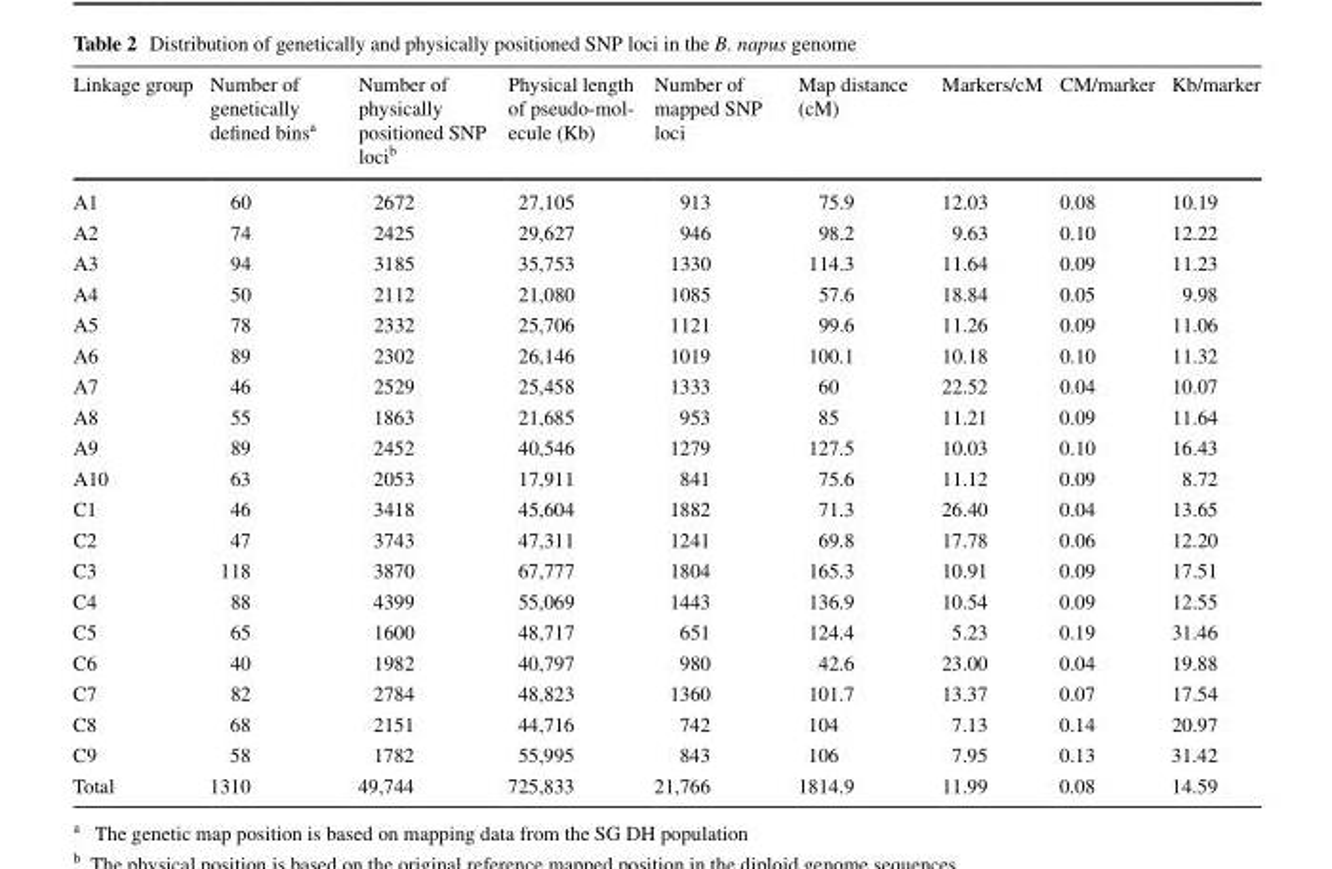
<table><thead><tr><td>Linkage group</td><td>Number of genetically defined bins<sup>a</sup></td><td>Number of physically positioned SNP loci<sup>b</sup></td><td>Physical length of pseudo-mol- ecule (Kb)</td><td>Number of mapped SNP loci</td><td>Map distance (cM)</td><td>Markers/cM</td><td>CM/marker</td><td>Kb/marker</td></tr></thead><tbody><tr><td>A1</td><td>60</td><td>2672</td><td>27,105</td><td>913</td><td>75.9</td><td>12.03</td><td>0.08</td><td>10.19</td></tr><tr><td>A2</td><td>74</td><td>2425</td><td>29,627</td><td>946</td><td>98.2</td><td>9.63</td><td>0.10</td><td>12.22</td></tr><tr><td>A3</td><td>94</td><td>3185</td><td>35,753</td><td>1330</td><td>114.3</td><td>11.64</td><td>0.09</td><td>11.23</td></tr><tr><td>A4</td><td>50</td><td>2112</td><td>21,080</td><td>1085</td><td>57.6</td><td>18.84</td><td>0.05</td><td>9.98</td></tr><tr><td>A5</td><td>78</td><td>2332</td><td>25,706</td><td>1121</td><td>99.6</td><td>11.26</td><td>0.09</td><td>11.06</td></tr><tr><td>A6</td><td>89</td><td>2302</td><td>26,146</td><td>1019</td><td>100.1</td><td>10.18</td><td>0.10</td><td>11.32</td></tr><tr><td>A7</td><td>46</td><td>2529</td><td>25,458</td><td>1333</td><td>60</td><td>22.52</td><td>0.04</td><td>10.07</td></tr><tr><td>A8</td><td>55</td><td>1863</td><td>21,685</td><td>953</td><td>85</td><td>11.21</td><td>0.09</td><td>11.64</td></tr><tr><td>A9</td><td>89</td><td>2452</td><td>40,546</td><td>1279</td><td>127.5</td><td>10.03</td><td>0.10</td><td>16.43</td></tr><tr><td>A10</td><td>63</td><td>2053</td><td>17,911</td><td>841</td><td>75.6</td><td>11.12</td><td>0.09</td><td>8.72</td></tr><tr><td>C1</td><td>46</td><td>3418</td><td>45,604</td><td>1882</td><td>71.3</td><td>26.40</td><td>0.04</td><td>13.65</td></tr><tr><td>C2</td><td>47</td><td>3743</td><td>47,311</td><td>1241</td><td>69.8</td><td>17.78</td><td>0.06</td><td>12.20</td></tr><tr><td>C3</td><td>118</td><td>3870</td><td>67,777</td><td>1804</td><td>165.3</td><td>10.91</td><td>0.09</td><td>17.51</td></tr><tr><td>C4</td><td>88</td><td>4399</td><td>55,069</td><td>1443</td><td>136.9</td><td>10.54</td><td>0.09</td><td>12.55</td></tr><tr><td>C5</td><td>65</td><td>1600</td><td>48,717</td><td>651</td><td>124.4</td><td>5.23</td><td>0.19</td><td>31.46</td></tr><tr><td>C6</td><td>40</td><td>1982</td><td>40,797</td><td>980</td><td>42.6</td><td>23.00</td><td>0.04</td><td>19.88</td></tr><tr><td>C7</td><td>82</td><td>2784</td><td>48,823</td><td>1360</td><td>101.7</td><td>13.37</td><td>0.07</td><td>17.54</td></tr><tr><td>C8</td><td>68</td><td>2151</td><td>44,716</td><td>742</td><td>104</td><td>7.13</td><td>0.14</td><td>20.97</td></tr><tr><td>C9</td><td>58</td><td>1782</td><td>55,995</td><td>843</td><td>106</td><td>7.95</td><td>0.13</td><td>31.42</td></tr><tr><td>Total</td><td>1310</td><td>49,744</td><td>725,833</td><td>21,766</td><td>1814.9</td><td>11.99</td><td>0.08</td><td>14.59</td></tr></tbody></table>